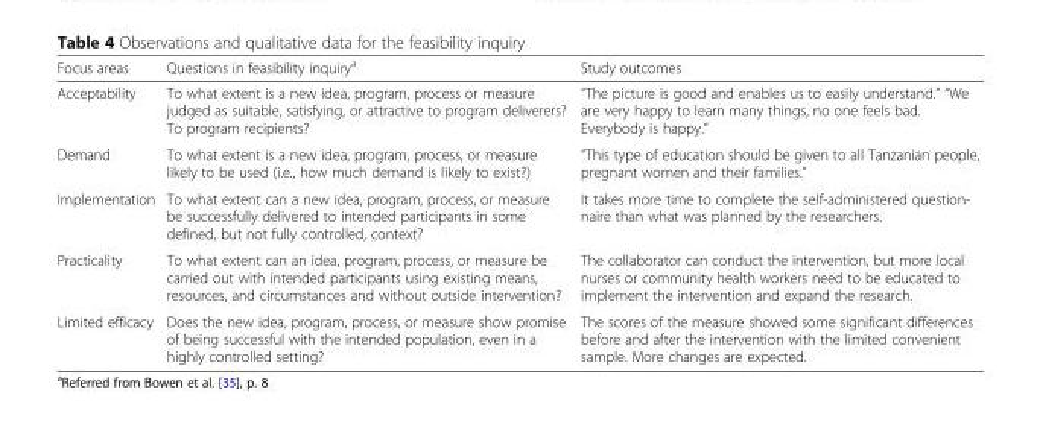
<table><thead><tr><td>Focus areas</td><td>Questions in feasibility inquiry<sup>a</sup></td><td>Study outcomes</td></tr></thead><tbody><tr><td>Acceptability</td><td>To what extent is a new idea, program, process or measure judged as suitable, satisfying, or attractive to program deliverers? To program recipients?</td><td>“The picture is good and enables us to easily understand.” “We are very happy to learn many things, no one feels bad. Everybody is happy.”</td></tr><tr><td>Demand</td><td>To what extent is a new idea, program, process, or measure likely to be used (i.e., how much demand is likely to exist?)</td><td>“This type of education should be given to all Tanzanian people, pregnant women and their families.”</td></tr><tr><td>Implementation</td><td>To what extent can a new idea, program, process, or measure be successfully delivered to intended participants in some defined, but not fully controlled, context?</td><td>It takes more time to complete the self-administered question- naire than what was planned by the researchers.</td></tr><tr><td>Practicality</td><td>To what extent can an idea, program, process, or measure be carried out with intended participants using existing means, resources, and circumstances and without outside intervention?</td><td>The collaborator can conduct the intervention, but more local nurses or community health workers need to be educated to implement the intervention and expand the research.</td></tr><tr><td>Limited efficacy</td><td>Does the new idea, program, process, or measure show promise of being successful with the intended population, even in a highly controlled setting?</td><td>The scores of the measure showed some significant differences before and after the intervention with the limited convenient sample. More changes are expected.</td></tr></tbody></table>